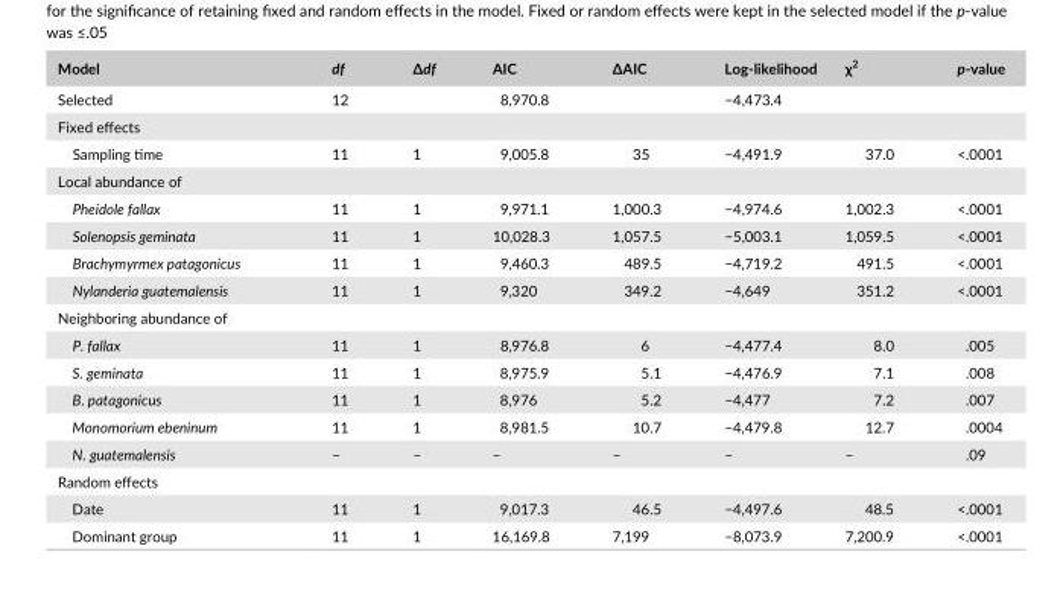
<table><thead><tr><td>Model</td><td>df</td><td>Δdf</td><td>AIC</td><td>ΔAIC</td><td>Log- likelihood</td><td>χ<sup>2</sup></td><td>p- value</td></tr></thead><tbody><tr><td>Selected</td><td>12</td><td></td><td>8,970.8</td><td></td><td>−4,473.4</td><td></td><td></td></tr><tr><td colspan="8">Fixed effects</td></tr><tr><td>Sampling time</td><td>11</td><td>1</td><td>9,005.8</td><td>35</td><td>−4,491.9</td><td>37.0</td><td>&lt;.0001</td></tr><tr><td colspan="8">Local abundance of</td></tr><tr><td>Pheidole fallax</td><td>11</td><td>1</td><td>9,971.1</td><td>1,000.3</td><td>−4,974.6</td><td>1,002.3</td><td>&lt;.0001</td></tr><tr><td>Solenopsis geminata</td><td>11</td><td>1</td><td>10,028.3</td><td>1,057.5</td><td>−5,003.1</td><td>1,059.5</td><td>&lt;.0001</td></tr><tr><td>Brachymyrmex patagonicus</td><td>11</td><td>1</td><td>9,460.3</td><td>489.5</td><td>−4,719.2</td><td>491.5</td><td>&lt;.0001</td></tr><tr><td>Nylanderia guatemalensis</td><td>11</td><td>1</td><td>9,320</td><td>349.2</td><td>−4,649</td><td>351.2</td><td>&lt;.0001</td></tr><tr><td colspan="8">Neighboring abundance of</td></tr><tr><td>P. fallax</td><td>11</td><td>1</td><td>8,976.8</td><td>6</td><td>−4,477.4</td><td>8.0</td><td>.005</td></tr><tr><td>S. geminata</td><td>11</td><td>1</td><td>8,975.9</td><td>5.1</td><td>−4,476.9</td><td>7.1</td><td>.008</td></tr><tr><td>B. patagonicus</td><td>11</td><td>1</td><td>8,976</td><td>5.2</td><td>−4,477</td><td>7.2</td><td>.007</td></tr><tr><td>Monomorium ebeninum</td><td>11</td><td>1</td><td>8,981.5</td><td>10.7</td><td>−4,479.8</td><td>12.7</td><td>.0004</td></tr><tr><td>N. guatemalensis</td><td>–</td><td>–</td><td>–</td><td>–</td><td>–</td><td>–</td><td>.09</td></tr><tr><td colspan="8">Random effects</td></tr><tr><td>Date</td><td>11</td><td>1</td><td>9,017.3</td><td>46.5</td><td>−4,497.6</td><td>48.5</td><td>&lt;.0001</td></tr><tr><td>Dominant group</td><td>11</td><td>1</td><td>16,169.8</td><td>7,199</td><td>−8,073.9</td><td>7,200.9</td><td>&lt;.0001</td></tr></tbody></table>